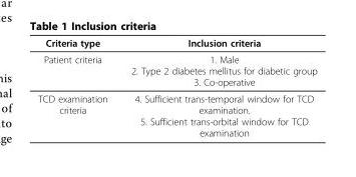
<table><thead><tr><td>Criteria type</td><td>Inclusion criteria</td></tr></thead><tbody><tr><td>Patient criteria</td><td>1. Male 2. Type 2 diabetes mellitus for diabetic group 3. Co-operative</td></tr><tr><td>TCD examination criteria</td><td>4. Sufficient trans-temporal window for TCD examination. 5. Sufficient trans-orbital window for TCD examination</td></tr></tbody></table>